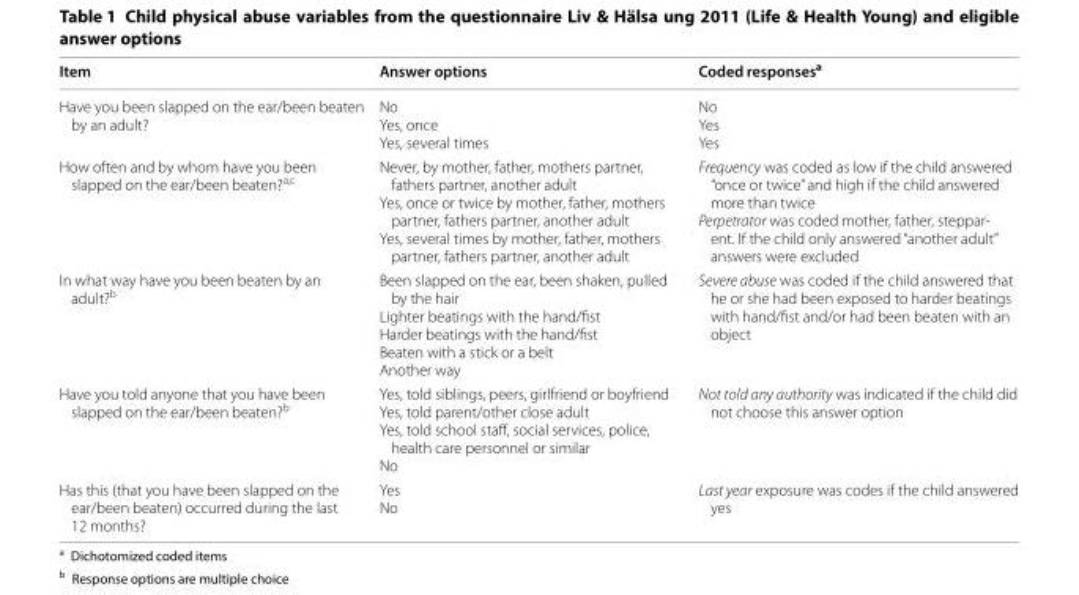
<table><thead><tr><td>Item</td><td>Answer options</td><td>Coded responses<sup>a</sup></td></tr></thead><tbody><tr><td>Have you been slapped on the ear/been beaten by an adult?</td><td>No Yes, once Yes, several times</td><td>No Yes Yes</td></tr><tr><td>How often and by whom have you been slapped on the ear/been beaten?<sup>a,c</sup></td><td>Never, by mother, father, mothers partner, fathers partner, another adult Yes, once or twice by mother, father, mothers partner, fathers partner, another adult Yes, several times by mother, father, mothers partner, fathers partner, another adult</td><td>Frequency was coded as low if the child answered “once or twice” and high if the child answered more than twice Perpetrator was coded mother, father, steppar‑ ent. If the child only answered “another adult” answers were excluded</td></tr><tr><td>In what way have you been beaten by an adult?<sup>b</sup></td><td>Been slapped on the ear, been shaken, pulled by the hair Lighter beatings with the hand/fist Harder beatings with the hand/fist Beaten with a stick or a belt Another way</td><td>Severe abuse was coded if the child answered that he or she had been exposed to harder beatings with hand/fist and/or had been beaten with an object</td></tr><tr><td>Have you told anyone that you have been slapped on the ear/been beaten?<sup>b</sup></td><td>Yes, told siblings, peers, girlfriend or boyfriend Yes, told parent/other close adult Yes, told school staff, social services, police, health care personnel or similar No</td><td>Not told any authority was indicated if the child did not choose this answer option</td></tr><tr><td>Has this (that you have been slapped on the ear/been beaten) occurred during the last 12 months?</td><td>Yes No</td><td>Last year exposure was codes if the child answered yes</td></tr></tbody></table>